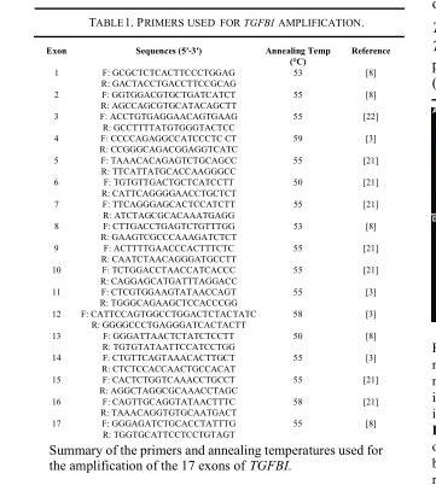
<table><tbody><tr><td>Exon</td><td>Sequences (5′-3′)</td><td>Annealing Temp (°C)</td><td>Reference</td></tr><tr><td rowspan="2">1</td><td>F: GCGCTCTCACTTCCCTGGAG</td><td>53</td><td>[8]</td></tr><tr><td>R: GACTACCTGACCTTCCGCAG</td><td></td><td></td></tr><tr><td rowspan="2">2</td><td>F: GGTGGACGTGCTGATCATCT</td><td>55</td><td>[8]</td></tr><tr><td>R: AGCCAGCGTGCATACAGCTT</td><td></td><td></td></tr><tr><td rowspan="2">3</td><td>F: ACCTGTGAGGAACAGTGAAG</td><td>55</td><td>[22]</td></tr><tr><td>R: GCCTTTTATGTGGGTACTCC</td><td></td><td></td></tr><tr><td rowspan="2">4</td><td>F: CCCCAGAGGCCATCCCTC CT</td><td>59</td><td>[3]</td></tr><tr><td>R: CCGGGCAGACGGAGGTCATC</td><td></td><td></td></tr><tr><td rowspan="2">5</td><td>F: TAAACACAGAGTCTGCAGCC</td><td>55</td><td>[21]</td></tr><tr><td>R: TTCATTATGCACCAAGGGCC</td><td></td><td></td></tr><tr><td rowspan="2">6</td><td>F: TGTGTTGACTGCTCATCCTT</td><td>50</td><td>[21]</td></tr><tr><td>R: CATTCAGGGGAACCTGCTCT</td><td></td><td></td></tr><tr><td rowspan="2">7</td><td>F: TTCAGGGAGCACTCCATCTT</td><td>55</td><td>[21]</td></tr><tr><td>R: ATCTAGCGCACAAATGAGG</td><td></td><td></td></tr><tr><td rowspan="2">8</td><td>F: CTTGACCTGAGTCTGTTTGG</td><td>53</td><td>[8]</td></tr><tr><td>R: GAAGTCGCCCAAAGATCTCT</td><td></td><td></td></tr><tr><td rowspan="2">9</td><td>F: ACTTTTGAACCCACTTTCTC</td><td>55</td><td>[21]</td></tr><tr><td>R: CAATCTAACAGGGATGCCTT</td><td></td><td></td></tr><tr><td rowspan="2">10</td><td>F: TCTGGACCTAACCATCACCC</td><td>55</td><td>[21]</td></tr><tr><td>R: CAGGAGCATGATTTAGGACC</td><td></td><td></td></tr><tr><td rowspan="2">11</td><td>F: CTCGTGGAAGTATAACCAGT</td><td>55</td><td>[3]</td></tr><tr><td>R: TGGGCAGAAGCTCCACCCGG</td><td></td><td></td></tr><tr><td rowspan="2">12</td><td>F: CATTCCAGTGGCCTGGACTCTACTATC</td><td>58</td><td>[3]</td></tr><tr><td>R: GGGGCCCTGAGGGATCACTACTT</td><td></td><td></td></tr><tr><td rowspan="2">13</td><td>F: GGGATTAACTCTATCTCCTT</td><td>50</td><td>[8]</td></tr><tr><td>R: TGTGTATAATTCCATCCTGG</td><td></td><td></td></tr><tr><td rowspan="2">14</td><td>F: CTGTTCAGTAAACACTTGCT</td><td>55</td><td>[3]</td></tr><tr><td>R: CTCTCCACCAACTGCCACAT</td><td></td><td></td></tr><tr><td rowspan="2">15</td><td>F: CACTCTGGTCAAACCTGCCT</td><td>55</td><td>[21]</td></tr><tr><td>R: AGGCTAGGCGCAAACCTAGC</td><td></td><td></td></tr><tr><td rowspan="2">16</td><td>F: CAGTTGCAGGTATAACTTTC</td><td>58</td><td>[21]</td></tr><tr><td>R: TAAACAGGTGTGCAATGACT</td><td></td><td></td></tr><tr><td rowspan="2">17</td><td>F: GGGAGATCTGCACCTATTTG</td><td>55</td><td>[8]</td></tr><tr><td>R: TGGTGCATTCCTCCTGTAGT</td><td></td><td></td></tr></tbody></table>